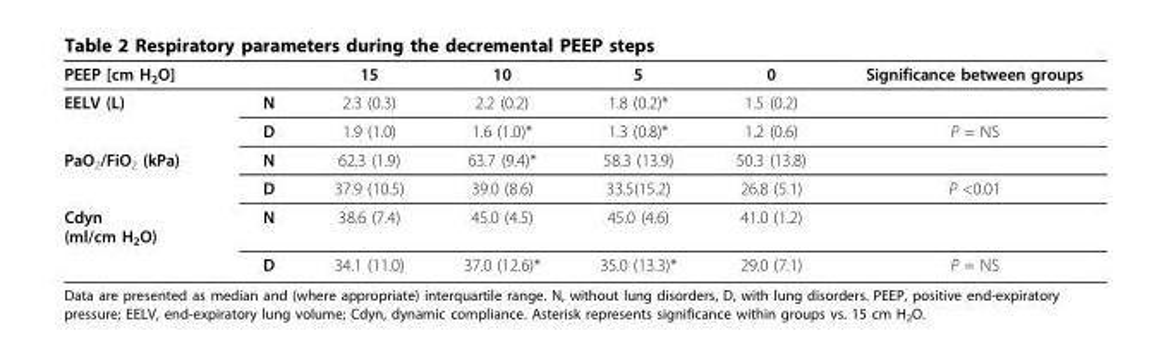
<table><thead><tr><td>PEEP [cm H<sub>2</sub>O]</td><td></td><td>15</td><td>10</td><td>5</td><td>0</td><td>Significance between groups</td></tr></thead><tbody><tr><td rowspan="2">EELV (L)</td><td>N</td><td>2.3 (0.3)</td><td>2.2 (0.2)</td><td>1.8 (0.2)*</td><td>1.5 (0.2)</td><td></td></tr><tr><td>D</td><td>1.9 (1.0)</td><td>1.6 (1.0)*</td><td>1.3 (0.8)*</td><td>1.2 (0.6)</td><td>P = NS</td></tr><tr><td rowspan="2">PaO<sub>2</sub>/FiO<sub>2</sub> (kPa)</td><td>N</td><td>62.3 (1.9)</td><td>63.7 (9.4)*</td><td>58.3 (13.9)</td><td>50.3 (13.8)</td><td></td></tr><tr><td>D</td><td>37.9 (10.5)</td><td>39.0 (8.6)</td><td>33.5(15.2)</td><td>26.8 (5.1)</td><td>P &lt;0.01</td></tr><tr><td rowspan="2">Cdyn (ml/cm H<sub>2</sub>O)</td><td>N</td><td>38.6 (7.4)</td><td>45.0 (4.5)</td><td>45.0 (4.6)</td><td>41.0 (1.2)</td><td></td></tr><tr><td>D</td><td>34.1 (11.0)</td><td>37.0 (12.6)*</td><td>35.0 (13.3)*</td><td>29.0 (7.1)</td><td>P = NS</td></tr></tbody></table>